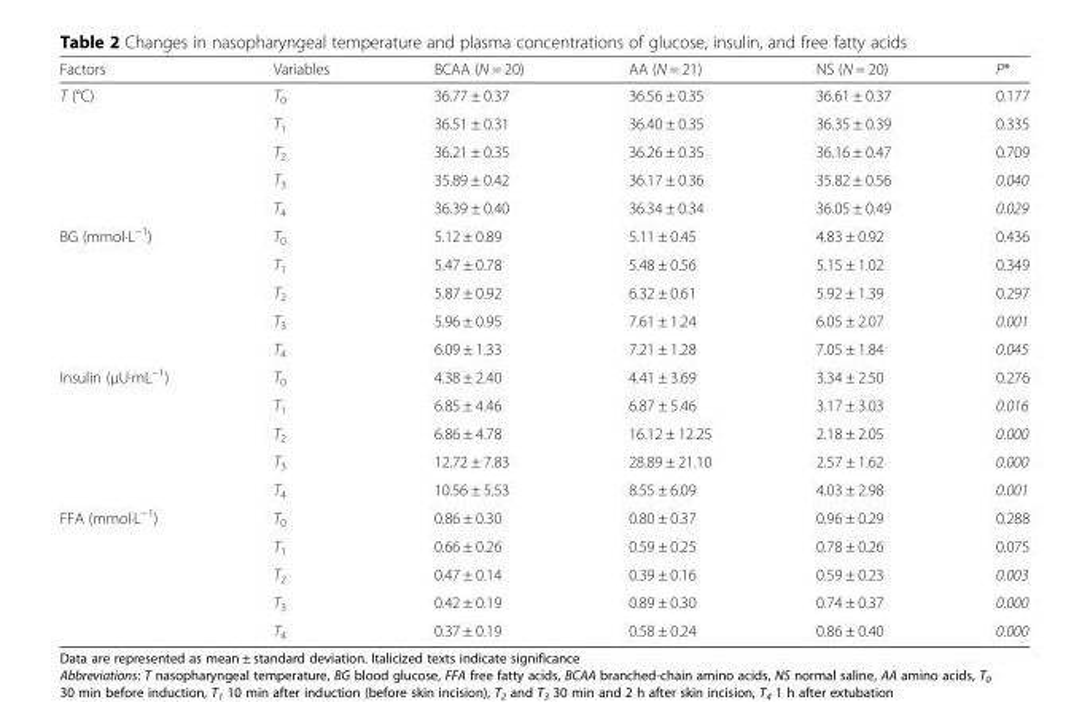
<table><thead><tr><td>Factors</td><td>Variables</td><td>BCAA (N = 20)</td><td>AA (N = 21)</td><td>NS (N = 20)</td><td>P*</td></tr></thead><tbody><tr><td rowspan="5">T (°C)</td><td>T<sub>0</sub></td><td>36.77 ± 0.37</td><td>36.56 ± 0.35</td><td>36.61 ± 0.37</td><td>0.177</td></tr><tr><td>T<sub>1</sub></td><td>36.51 ± 0.31</td><td>36.40 ± 0.35</td><td>36.35 ± 0.39</td><td>0.335</td></tr><tr><td>T<sub>2</sub></td><td>36.21 ± 0.35</td><td>36.26 ± 0.35</td><td>36.16 ± 0.47</td><td>0.709</td></tr><tr><td>T<sub>3</sub></td><td>35.89 ± 0.42</td><td>36.17 ± 0.36</td><td>35.82 ± 0.56</td><td>0.040</td></tr><tr><td>T<sub>4</sub></td><td>36.39 ± 0.40</td><td>36.34 ± 0.34</td><td>36.05 ± 0.49</td><td>0.029</td></tr><tr><td rowspan="5">BG (mmol·L<sup>−1</sup>)</td><td>T<sub>0</sub></td><td>5.12 ± 0.89</td><td>5.11 ± 0.45</td><td>4.83 ± 0.92</td><td>0.436</td></tr><tr><td>T<sub>1</sub></td><td>5.47 ± 0.78</td><td>5.48 ± 0.56</td><td>5.15 ± 1.02</td><td>0.349</td></tr><tr><td>T<sub>2</sub></td><td>5.87 ± 0.92</td><td>6.32 ± 0.61</td><td>5.92 ± 1.39</td><td>0.297</td></tr><tr><td>T<sub>3</sub></td><td>5.96 ± 0.95</td><td>7.61 ± 1.24</td><td>6.05 ± 2.07</td><td>0.001</td></tr><tr><td>T<sub>4</sub></td><td>6.09 ± 1.33</td><td>7.21 ± 1.28</td><td>7.05 ± 1.84</td><td>0.045</td></tr><tr><td rowspan="5">Insulin (μU·mL<sup>−1</sup>)</td><td>T<sub>0</sub></td><td>4.38 ± 2.40</td><td>4.41 ± 3.69</td><td>3.34 ± 2.50</td><td>0.276</td></tr><tr><td>T<sub>1</sub></td><td>6.85 ± 4.46</td><td>6.87 ± 5.46</td><td>3.17 ± 3.03</td><td>0.016</td></tr><tr><td>T<sub>2</sub></td><td>6.86 ± 4.78</td><td>16.12 ± 12.25</td><td>2.18 ± 2.05</td><td>0.000</td></tr><tr><td>T<sub>3</sub></td><td>12.72 ± 7.83</td><td>28.89 ± 21.10</td><td>2.57 ± 1.62</td><td>0.000</td></tr><tr><td>T<sub>4</sub></td><td>10.56 ± 5.53</td><td>8.55 ± 6.09</td><td>4.03 ± 2.98</td><td>0.001</td></tr><tr><td rowspan="5">FFA (mmol·L<sup>−1</sup>)</td><td>T<sub>0</sub></td><td>0.86 ± 0.30</td><td>0.80 ± 0.37</td><td>0.96 ± 0.29</td><td>0.288</td></tr><tr><td>T<sub>1</sub></td><td>0.66 ± 0.26</td><td>0.59 ± 0.25</td><td>0.78 ± 0.26</td><td>0.075</td></tr><tr><td>T<sub>2</sub></td><td>0.47 ± 0.14</td><td>0.39 ± 0.16</td><td>0.59 ± 0.23</td><td>0.003</td></tr><tr><td>T<sub>3</sub></td><td>0.42 ± 0.19</td><td>0.89 ± 0.30</td><td>0.74 ± 0.37</td><td>0.000</td></tr><tr><td>T<sub>4</sub></td><td>0.37 ± 0.19</td><td>0.58 ± 0.24</td><td>0.86 ± 0.40</td><td>0.000</td></tr></tbody></table>